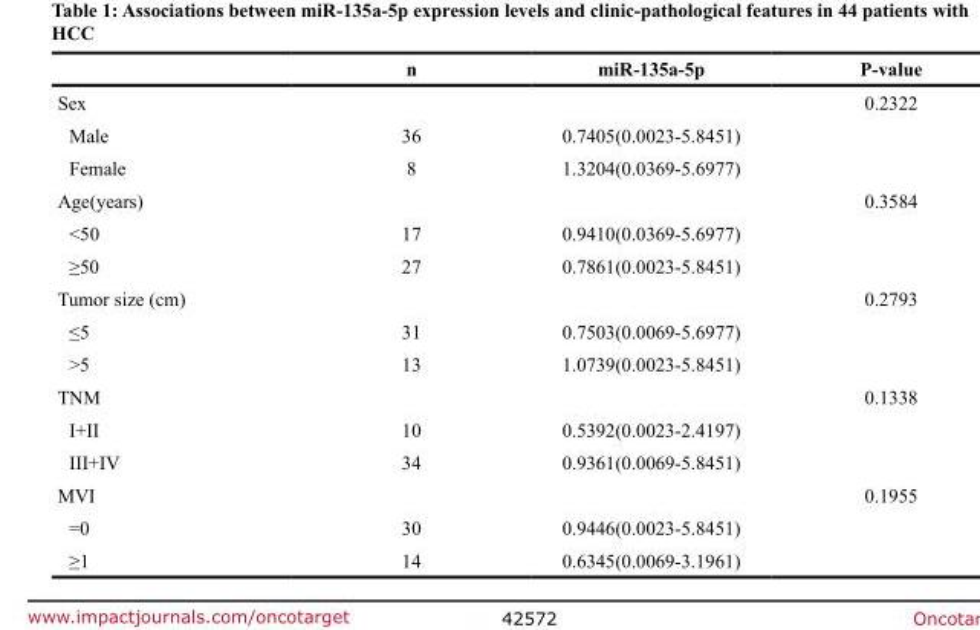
<table><thead><tr><td></td><td>n</td><td>miR-135a-5p</td><td>P-value</td></tr></thead><tbody><tr><td>Sex</td><td></td><td></td><td>0.2322</td></tr><tr><td>Male</td><td>36</td><td>0.7405(0.0023-5.8451)</td><td></td></tr><tr><td>Female</td><td>8</td><td>1.3204(0.0369-5.6977)</td><td></td></tr><tr><td>Age(years)</td><td></td><td></td><td>0.3584</td></tr><tr><td>&lt;50</td><td>17</td><td>0.9410(0.0369-5.6977)</td><td></td></tr><tr><td>≥50</td><td>27</td><td>0.7861(0.0023-5.8451)</td><td></td></tr><tr><td>Tumor size (cm)</td><td></td><td></td><td>0.2793</td></tr><tr><td>≤5</td><td>31</td><td>0.7503(0.0069-5.6977)</td><td></td></tr><tr><td>&gt;5</td><td>13</td><td>1.0739(0.0023-5.8451)</td><td></td></tr><tr><td>TNM</td><td></td><td></td><td>0.1338</td></tr><tr><td>I+II</td><td>10</td><td>0.5392(0.0023-2.4197)</td><td></td></tr><tr><td>III+IV</td><td>34</td><td>0.9361(0.0069-5.8451)</td><td></td></tr><tr><td>MVI</td><td></td><td></td><td>0.1955</td></tr><tr><td>=0</td><td>30</td><td>0.9446(0.0023-5.8451)</td><td></td></tr><tr><td>≥1</td><td>14</td><td>0.6345(0.0069-3.1961)</td><td></td></tr></tbody></table>